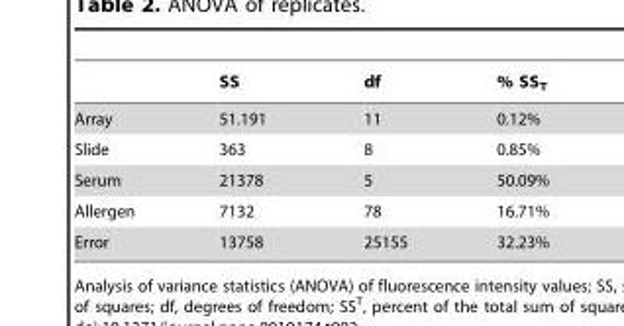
<table><thead><tr><td></td><td>SS</td><td>df</td><td>% SS<sub>T</sub></td></tr></thead><tbody><tr><td>Array</td><td>51.191</td><td>11</td><td>0.12%</td></tr><tr><td>Slide</td><td>363</td><td>8</td><td>0.85%</td></tr><tr><td>Serum</td><td>21378</td><td>5</td><td>50.09%</td></tr><tr><td>Allergen</td><td>7132</td><td>78</td><td>16.71%</td></tr><tr><td>Error</td><td>13758</td><td>25155</td><td>32.23%</td></tr></tbody></table>